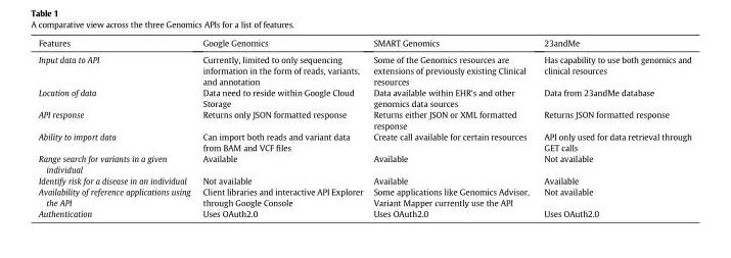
<table><thead><tr><td>Features</td><td>Google Genomics</td><td>SMART Genomics</td><td>23andMe</td></tr></thead><tbody><tr><td>Input data to API</td><td>Currently, limited to only sequencing information in the form of reads, variants, and annotation</td><td>Some of the Genomics resources are extensions of previously existing Clinical resources</td><td>Has capability to use both genomics and clinical resources</td></tr><tr><td>Location of data</td><td>Data need to reside within Google Cloud Storage</td><td>Data available within EHR&#x27;s and other genomics data sources</td><td>Data from 23andMe database</td></tr><tr><td>API response</td><td>Returns only JSON formatted response</td><td>Returns either JSON or XML formatted response</td><td>Returns JSON formatted response</td></tr><tr><td>Ability to import data</td><td>Can import both reads and variant data from BAM and VCF files</td><td>Create call available for certain resources</td><td>API only used for data retrieval through GET calls</td></tr><tr><td>Range search for variants in a given individual</td><td>Available</td><td>Available</td><td>Not available</td></tr><tr><td>Identify risk for a disease in an individual</td><td>Not available</td><td>Available</td><td>Available</td></tr><tr><td>Availability of reference applications using the API</td><td>Client libraries and interactive API Explorer through Google Console</td><td>Some applications like Genomics Advisor, Variant Mapper currently use the API</td><td>Not available</td></tr><tr><td>Authentication</td><td>Uses OAuth2.0</td><td>Uses OAuth2.0</td><td>Uses OAuth2.0</td></tr></tbody></table>